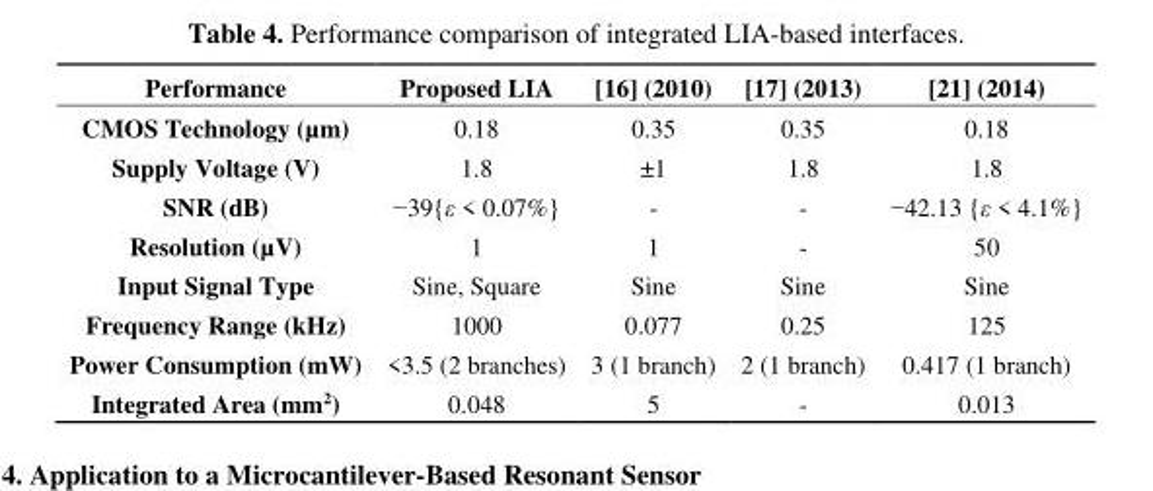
<table><thead><tr><td>Performance</td><td>Proposed LIA</td><td>[16] (2010)</td><td>[17] (2013)</td><td>[21] (2014)</td></tr></thead><tbody><tr><td>CMOS Technology (µm)</td><td>0.18</td><td>0.35</td><td>0.35</td><td>0.18</td></tr><tr><td>Supply Voltage (V)</td><td>1.8</td><td>±1</td><td>1.8</td><td>1.8</td></tr><tr><td>SNR (dB)</td><td>−39{ε &lt; 0.07%}</td><td>-</td><td>-</td><td>−42.13 {ε &lt; 4.1%}</td></tr><tr><td>Resolution (µV)</td><td>1</td><td>1</td><td>-</td><td>50</td></tr><tr><td>Input Signal Type</td><td>Sine, Square</td><td>Sine</td><td>Sine</td><td>Sine</td></tr><tr><td>Frequency Range (kHz)</td><td>1000</td><td>0.077</td><td>0.25</td><td>125</td></tr><tr><td>Power Consumption (mW)</td><td>&lt;3.5 (2 branches)</td><td>3 (1 branch)</td><td>2 (1 branch)</td><td>0.417 (1 branch)</td></tr><tr><td>Integrated Area (mm<sup>2</sup>)</td><td>0.048</td><td>5</td><td>-</td><td>0.013</td></tr></tbody></table>